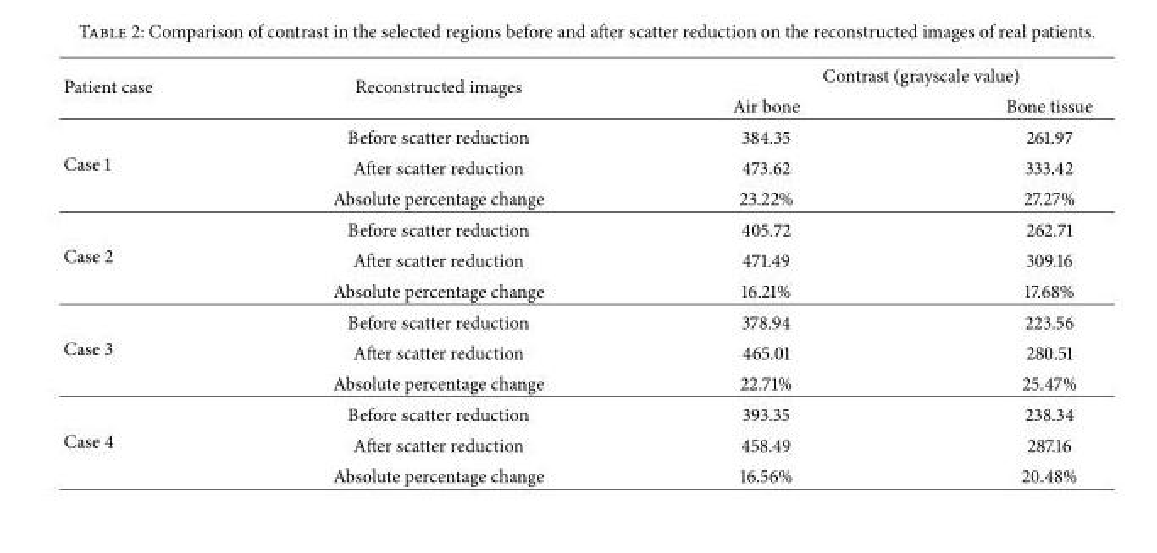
<table><thead><tr><td rowspan="2">Patient case</td><td rowspan="2">Reconstructed images</td><td colspan="2">Contrast (grayscale value)</td></tr><tr><td>Air bone</td><td>Bone tissue</td></tr></thead><tbody><tr><td rowspan="3">Case 1</td><td>Before scatter reduction</td><td>384.35</td><td>261.97</td></tr><tr><td>After scatter reduction</td><td>473.62</td><td>333.42</td></tr><tr><td>Absolute percentage change</td><td>23.22%</td><td>27.27%</td></tr><tr><td rowspan="3">Case 2</td><td>Before scatter reduction</td><td>405.72</td><td>262.71</td></tr><tr><td>After scatter reduction</td><td>471.49</td><td>309.16</td></tr><tr><td>Absolute percentage change</td><td>16.21%</td><td>17.68%</td></tr><tr><td rowspan="3">Case 3</td><td>Before scatter reduction</td><td>378.94</td><td>223.56</td></tr><tr><td>After scatter reduction</td><td>465.01</td><td>280.51</td></tr><tr><td>Absolute percentage change</td><td>22.71%</td><td>25.47%</td></tr><tr><td rowspan="3">Case 4</td><td>Before scatter reduction</td><td>393.35</td><td>238.34</td></tr><tr><td>After scatter reduction</td><td>458.49</td><td>287.16</td></tr><tr><td>Absolute percentage change</td><td>16.56%</td><td>20.48%</td></tr></tbody></table>